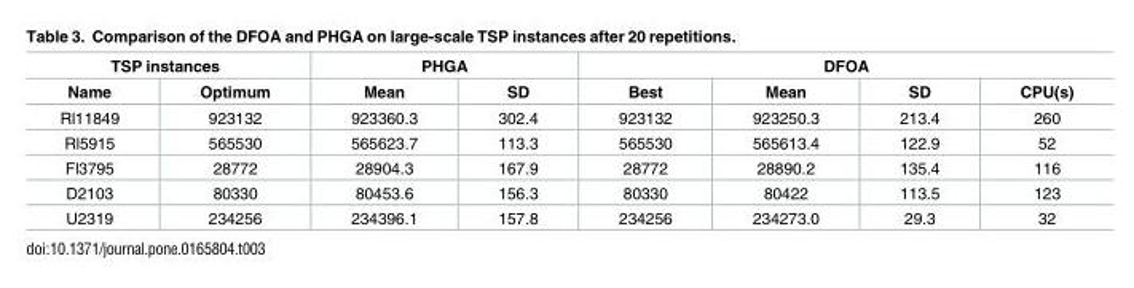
<table><thead><tr><td colspan="2">TSP instances</td><td colspan="2">PHGA</td><td colspan="4">DFOA</td></tr><tr><td>Name</td><td>Optimum</td><td>Mean</td><td>SD</td><td>Best</td><td>Mean</td><td>SD</td><td>CPU(s)</td></tr></thead><tbody><tr><td>Rl11849</td><td>923132</td><td>923360.3</td><td>302.4</td><td>923132</td><td>923250.3</td><td>213.4</td><td>260</td></tr><tr><td>Rl5915</td><td>565530</td><td>565623.7</td><td>113.3</td><td>565530</td><td>565613.4</td><td>122.9</td><td>52</td></tr><tr><td>Fl3795</td><td>28772</td><td>28904.3</td><td>167.9</td><td>28772</td><td>28890.2</td><td>135.4</td><td>116</td></tr><tr><td>D2103</td><td>80330</td><td>80453.6</td><td>156.3</td><td>80330</td><td>80422</td><td>113.5</td><td>123</td></tr><tr><td>U2319</td><td>234256</td><td>234396.1</td><td>157.8</td><td>234256</td><td>234273.0</td><td>29.3</td><td>32</td></tr></tbody></table>